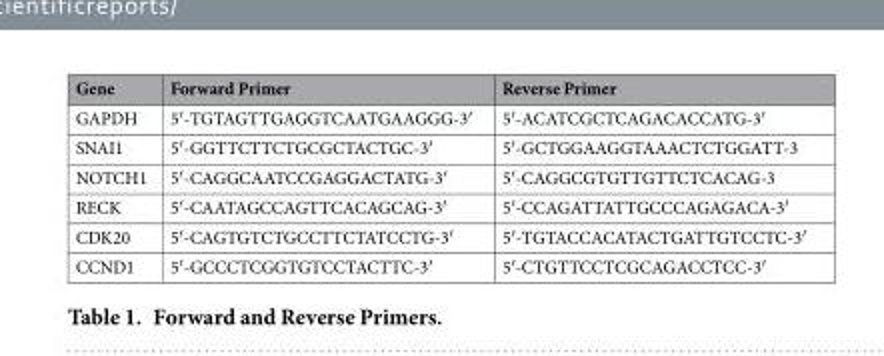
<table><thead><tr><td>Gene</td><td>Forward Primer</td><td>Reverse Primer</td></tr></thead><tbody><tr><td>GAPDH</td><td>5′ -TGTAGTTGAGGTCAATGAAGGG-3′</td><td>5′ -ACATCGCTCAGACACCATG-3′</td></tr><tr><td>SNAI1</td><td>5′ -GGTTCTTCTGCGCTACTGC-3′</td><td>5′ -GCTGGAAGGTAAACTCTGGATT-3</td></tr><tr><td>NOTCH1</td><td>5′ -CAGGCAATCCGAGGACTATG-3′</td><td>5′ -CAGGCGTGTTGTTCTCACAG-3</td></tr><tr><td>RECK</td><td>5′ -CAATAGCCAGTTCACAGCAG-3′</td><td>5′ -CCAGATTATTGCCCAGAGACA-3′</td></tr><tr><td>CDK20</td><td>5′ -CAGTGTCTGCCTTCTATCCTG-3′</td><td>5′ -TGTACCACATACTGATTGTCCTC-3′</td></tr><tr><td>CCND1</td><td>5′ -GCCCTCGGTGTCCTACTTC-3′</td><td>5′ -CTGTTCCTCGCAGACCTCC-3′</td></tr></tbody></table>